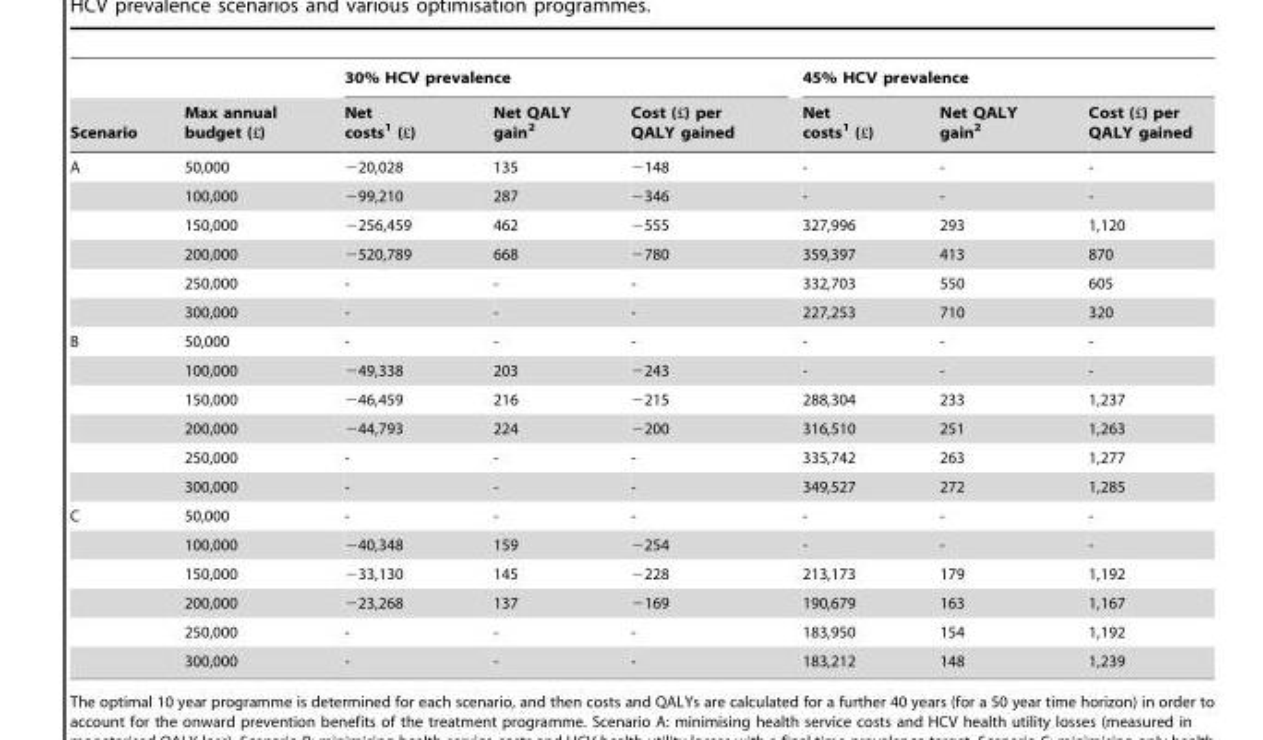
<table><thead><tr><td rowspan="2">Scenario</td><td rowspan="2">Max annual budget (»)</td><td colspan="3">30% HCV prevalence</td><td colspan="3">45% HCV prevalence</td></tr><tr><td>Net costs1 (»)</td><td>Net QALY gain<sup>2</sup></td><td>Cost (») per QALY gained</td><td>Net costs1 (»)</td><td>Net QALY gain<sup>2</sup></td><td>Cost (») per QALY gained</td></tr></thead><tbody><tr><td rowspan="6">A</td><td>50,000</td><td>−20,028</td><td>135</td><td>−148</td><td>-</td><td>-</td><td>-</td></tr><tr><td>100,000</td><td>−99,210</td><td>287</td><td>−346</td><td>-</td><td>-</td><td>-</td></tr><tr><td>150,000</td><td>−256,459</td><td>462</td><td>−555</td><td>327,996</td><td>293</td><td>1,120</td></tr><tr><td>200,000</td><td>−520,789</td><td>668</td><td>−780</td><td>359,397</td><td>413</td><td>870</td></tr><tr><td>250,000</td><td>-</td><td>-</td><td>-</td><td>332,703</td><td>550</td><td>605</td></tr><tr><td>300,000</td><td>-</td><td>-</td><td>-</td><td>227,253</td><td>710</td><td>320</td></tr><tr><td rowspan="6">B</td><td>50,000</td><td>-</td><td>-</td><td>-</td><td>-</td><td>-</td><td>-</td></tr><tr><td>100,000</td><td>−49,338</td><td>203</td><td>−243</td><td>-</td><td>-</td><td>-</td></tr><tr><td>150,000</td><td>−46,459</td><td>216</td><td>−215</td><td>288,304</td><td>233</td><td>1,237</td></tr><tr><td>200,000</td><td>−44,793</td><td>224</td><td>−200</td><td>316,510</td><td>251</td><td>1,263</td></tr><tr><td>250,000</td><td>-</td><td>-</td><td>-</td><td>335,742</td><td>263</td><td>1,277</td></tr><tr><td>300,000</td><td>-</td><td>-</td><td>-</td><td>349,527</td><td>272</td><td>1,285</td></tr><tr><td rowspan="6">C</td><td>50,000</td><td>-</td><td>-</td><td>-</td><td>-</td><td>-</td><td>-</td></tr><tr><td>100,000</td><td>−40,348</td><td>159</td><td>−254</td><td>-</td><td>-</td><td>-</td></tr><tr><td>150,000</td><td>−33,130</td><td>145</td><td>−228</td><td>213,173</td><td>179</td><td>1,192</td></tr><tr><td>200,000</td><td>−23,268</td><td>137</td><td>−169</td><td>190,679</td><td>163</td><td>1,167</td></tr><tr><td>250,000</td><td>-</td><td>-</td><td>-</td><td>183,950</td><td>154</td><td>1,192</td></tr><tr><td>300,000</td><td>-</td><td>-</td><td>-</td><td>183,212</td><td>148</td><td>1,239</td></tr></tbody></table>